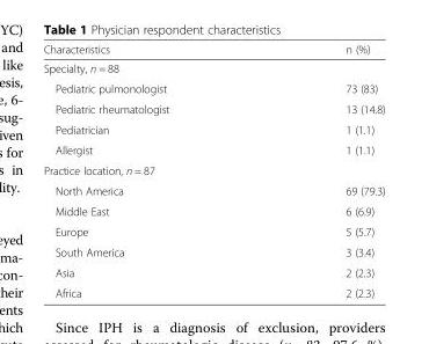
<table><thead><tr><td>Characteristics</td><td>n (%)</td></tr></thead><tbody><tr><td colspan="2">Specialty, n = 88</td></tr><tr><td>Pediatric pulmonologist</td><td>73 (83)</td></tr><tr><td>Pediatric rheumatologist</td><td>13 (14.8)</td></tr><tr><td>Pediatrician</td><td>1 (1.1)</td></tr><tr><td>Allergist</td><td>1 (1.1)</td></tr><tr><td colspan="2">Practice location, n = 87</td></tr><tr><td>North America</td><td>69 (79.3)</td></tr><tr><td>Middle East</td><td>6 (6.9)</td></tr><tr><td>Europe</td><td>5 (5.7)</td></tr><tr><td>South America</td><td>3 (3.4)</td></tr><tr><td>Asia</td><td>2 (2.3)</td></tr><tr><td>Africa</td><td>2 (2.3)</td></tr></tbody></table>